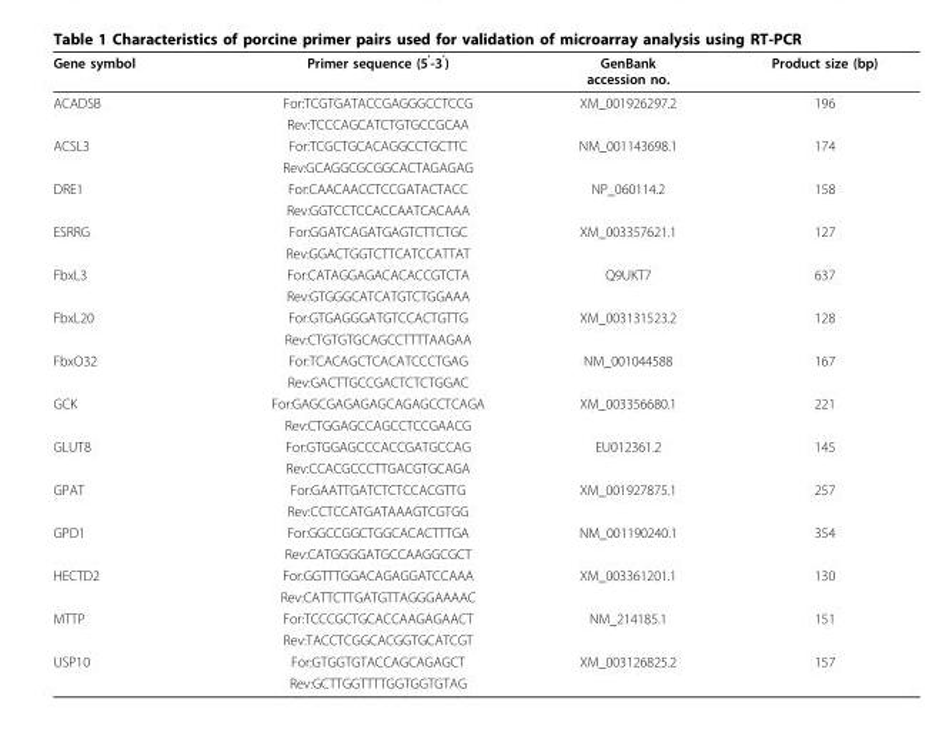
<table><thead><tr><td>Gene symbol</td><td>Primer sequence (5<sup>’</sup>-3<sup>’</sup>)</td><td>GenBank accession no.</td><td>Product size (bp)</td></tr></thead><tbody><tr><td rowspan="2">ACADSB</td><td>For:TCGTGATACCGAGGGCCTCCG</td><td>XM_001926297.2</td><td>196</td></tr><tr><td>Rev:TCCCAGCATCTGTGCCGCAA</td><td></td><td></td></tr><tr><td rowspan="2">ACSL3</td><td>For:TCGCTGCACAGGCCTGCTTC</td><td>NM_001143698.1</td><td>174</td></tr><tr><td>Rev:GCAGGCGCGGCACTAGAGAG</td><td></td><td></td></tr><tr><td rowspan="2">DRE1</td><td>For:CAACAACCTCCGATACTACC</td><td>NP_060114.2</td><td>158</td></tr><tr><td>Rev:GGTCCTCCACCAATCACAAA</td><td></td><td></td></tr><tr><td rowspan="2">ESRRG</td><td>For:GGATCAGATGAGTCTTCTGC</td><td>XM_003357621.1</td><td>127</td></tr><tr><td>Rev:GGACTGGTCTTCATCCATTAT</td><td></td><td></td></tr><tr><td rowspan="2">FbxL3</td><td>For:CATAGGAGACACACCGTCTA</td><td>Q9UKT7</td><td>637</td></tr><tr><td>Rev:GTGGGCATCATGTCTGGAAA</td><td></td><td></td></tr><tr><td rowspan="2">FbxL20</td><td>For:GTGAGGGATGTCCACTGTTG</td><td>XM_003131523.2</td><td>128</td></tr><tr><td>Rev:CTGTGTGCAGCCTTTTAAGAA</td><td></td><td></td></tr><tr><td rowspan="2">FbxO32</td><td>For:TCACAGCTCACATCCCTGAG</td><td>NM_001044588</td><td>167</td></tr><tr><td>Rev:GACTTGCCGACTCTCTGGAC</td><td></td><td></td></tr><tr><td rowspan="2">GCK</td><td>For:GAGCGAGAGAGCAGAGCCTCAGA</td><td>XM_003356680.1</td><td>221</td></tr><tr><td>Rev:CTGGAGCCAGCCTCCGAACG</td><td></td><td></td></tr><tr><td rowspan="2">GLUT8</td><td>For:GTGGAGCCCACCGATGCCAG</td><td>EU012361.2</td><td>145</td></tr><tr><td>Rev:CCACGCCCTTGACGTGCAGA</td><td></td><td></td></tr><tr><td rowspan="2">GPAT</td><td>For:GAATTGATCTCTCCACGTTG</td><td>XM_001927875.1</td><td>257</td></tr><tr><td>Rev:CCTCCATGATAAAGTCGTGG</td><td></td><td></td></tr><tr><td rowspan="2">GPD1</td><td>For:GGCCGGCTGGCACACTTTGA</td><td>NM_001190240.1</td><td>354</td></tr><tr><td>Rev:CATGGGGATGCCAAGGCGCT</td><td></td><td></td></tr><tr><td rowspan="2">HECTD2</td><td>For:GGTTTGGACAGAGGATCCAAA</td><td>XM_003361201.1</td><td>130</td></tr><tr><td>Rev:CATTCTTGATGTTAGGGAAAAC</td><td></td><td></td></tr><tr><td rowspan="2">MTTP</td><td>For:TCCCGCTGCACCAAGAGAACT</td><td>NM_214185.1</td><td>151</td></tr><tr><td>Rev:TACCTCGGCACGGTGCATCGT</td><td></td><td></td></tr><tr><td rowspan="2">USP10</td><td>For:GTGGTGTACCAGCAGAGCT</td><td>XM_003126825.2</td><td>157</td></tr><tr><td>Rev:GCTTGGTTTTGGTGGTGTAG</td><td></td><td></td></tr></tbody></table>